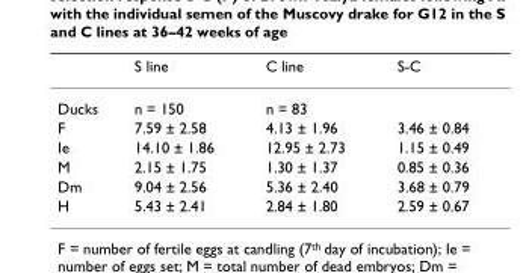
<table><thead><tr><td></td><td>S line</td><td>C line</td><td>S-C</td></tr></thead><tbody><tr><td>Ducks</td><td>n = 150</td><td>n = 83</td><td></td></tr><tr><td>F</td><td>7.59 ± 2.58</td><td>4.13 ± 1.96</td><td>3.46 ± 0.84</td></tr><tr><td>Ie</td><td>14.10 ± 1.86</td><td>12.95 ± 2.73</td><td>1.15 ± 0.49</td></tr><tr><td>M</td><td>2.15 ± 1.75</td><td>1.30 ± 1.37</td><td>0.85 ± 0.36</td></tr><tr><td>Dm</td><td>9.04 ± 2.56</td><td>5.36 ± 2.40</td><td>3.68 ± 0.79</td></tr><tr><td>H</td><td>5.43 ± 2.41</td><td>2.84 ± 1.80</td><td>2.59 ± 0.67</td></tr></tbody></table>